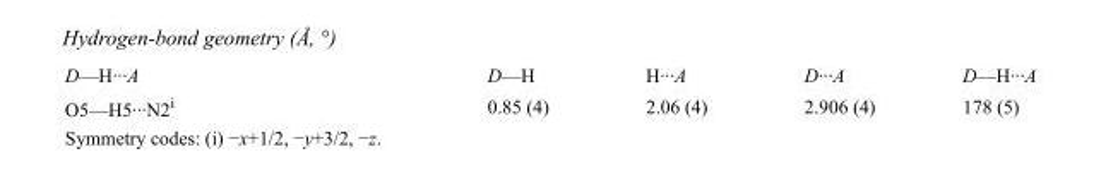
<table><tbody><tr><td>D—H···A</td><td>D—H</td><td>H···A</td><td>D···A</td><td>D—H···A</td></tr><tr><td>O5—H5···N2<sup>i</sup></td><td>0.85 (4)</td><td>2.06 (4)</td><td>2.906 (4)</td><td>178 (5)</td></tr></tbody></table>